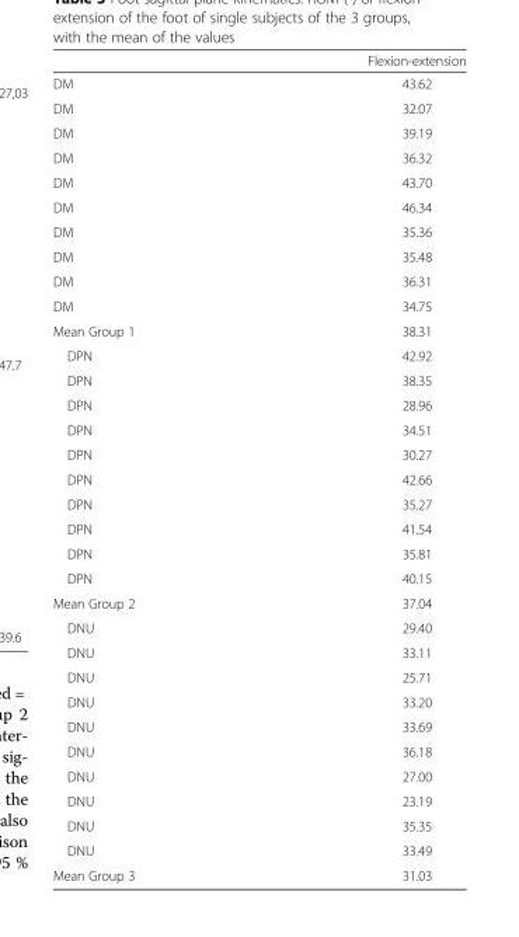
<table><thead><tr><td></td><td>Flexion-extension</td></tr></thead><tbody><tr><td>DM</td><td>43.62</td></tr><tr><td>DM</td><td>32.07</td></tr><tr><td>DM</td><td>39.19</td></tr><tr><td>DM</td><td>36.32</td></tr><tr><td>DM</td><td>43.70</td></tr><tr><td>DM</td><td>46.34</td></tr><tr><td>DM</td><td>35.36</td></tr><tr><td>DM</td><td>35.48</td></tr><tr><td>DM</td><td>36.31</td></tr><tr><td>DM</td><td>34.75</td></tr><tr><td>Mean Group 1</td><td>38.31</td></tr><tr><td>DPN</td><td>42.92</td></tr><tr><td>DPN</td><td>38.35</td></tr><tr><td>DPN</td><td>28.96</td></tr><tr><td>DPN</td><td>34.51</td></tr><tr><td>DPN</td><td>30.27</td></tr><tr><td>DPN</td><td>42.66</td></tr><tr><td>DPN</td><td>35.27</td></tr><tr><td>DPN</td><td>41.54</td></tr><tr><td>DPN</td><td>35.81</td></tr><tr><td>DPN</td><td>40.15</td></tr><tr><td>Mean Group 2</td><td>37.04</td></tr><tr><td>DNU</td><td>29.40</td></tr><tr><td>DNU</td><td>33.11</td></tr><tr><td>DNU</td><td>25.71</td></tr><tr><td>DNU</td><td>33.20</td></tr><tr><td>DNU</td><td>33.69</td></tr><tr><td>DNU</td><td>36.18</td></tr><tr><td>DNU</td><td>27.00</td></tr><tr><td>DNU</td><td>23.19</td></tr><tr><td>DNU</td><td>35.35</td></tr><tr><td>DNU</td><td>33.49</td></tr><tr><td>Mean Group 3</td><td>31.03</td></tr></tbody></table>